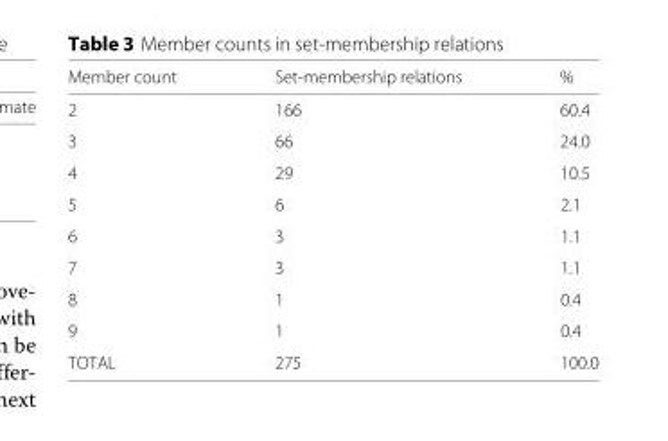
<table><thead><tr><td>Member count</td><td>Set-membership relations</td><td>%</td></tr></thead><tbody><tr><td>2</td><td>166</td><td>60.4</td></tr><tr><td>3</td><td>66</td><td>24.0</td></tr><tr><td>4</td><td>29</td><td>10.5</td></tr><tr><td>5</td><td>6</td><td>2.1</td></tr><tr><td>6</td><td>3</td><td>1.1</td></tr><tr><td>7</td><td>3</td><td>1.1</td></tr><tr><td>8</td><td>1</td><td>0.4</td></tr><tr><td>9</td><td>1</td><td>0.4</td></tr><tr><td>TOTAL</td><td>275</td><td>100.0</td></tr></tbody></table>